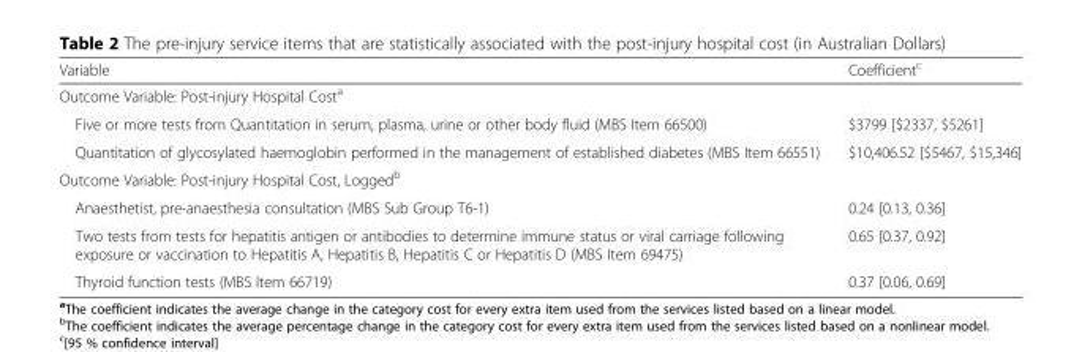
<table><thead><tr><td>Variable</td><td>Coefficient<sup>c</sup></td></tr></thead><tbody><tr><td colspan="2">Outcome Variable: Post-injury Hospital Cost<sup>a</sup></td></tr><tr><td>Five or more tests from Quantitation in serum, plasma, urine or other body fluid (MBS Item 66500)</td><td>$3799 [$2337, $5261]</td></tr><tr><td>Quantitation of glycosylated haemoglobin performed in the management of established diabetes (MBS Item 66551)</td><td>$10,406.52 [$5467, $15,346]</td></tr><tr><td colspan="2">Outcome Variable: Post-injury Hospital Cost, Logged<sup>b</sup></td></tr><tr><td>Anaesthetist, pre-anaesthesia consultation (MBS Sub Group T6-1)</td><td>0.24 [0.13, 0.36]</td></tr><tr><td>Two tests from tests for hepatitis antigen or antibodies to determine immune status or viral carriage following exposure or vaccination to Hepatitis A, Hepatitis B, Hepatitis C or Hepatitis D (MBS Item 69475)</td><td>0.65 [0.37, 0.92]</td></tr><tr><td>Thyroid function tests (MBS Item 66719)</td><td>0.37 [0.06, 0.69]</td></tr></tbody></table>